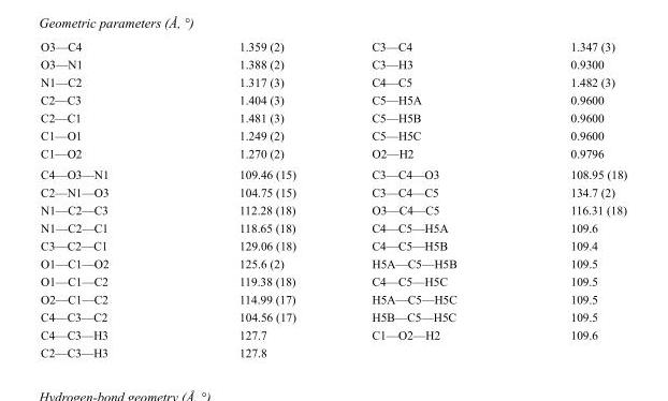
<table><tbody><tr><td>O3—C4</td><td>1.359 (2)</td><td>C3—C4</td><td>1.347 (3)</td></tr><tr><td>O3—N1</td><td>1.388 (2)</td><td>C3—H3</td><td>0.9300</td></tr><tr><td>N1—C2</td><td>1.317 (3)</td><td>C4—C5</td><td>1.482 (3)</td></tr><tr><td>C2—C3</td><td>1.404 (3)</td><td>C5—H5A</td><td>0.9600</td></tr><tr><td>C2—C1</td><td>1.481 (3)</td><td>C5—H5B</td><td>0.9600</td></tr><tr><td>C1—O1</td><td>1.249 (2)</td><td>C5—H5C</td><td>0.9600</td></tr><tr><td>C1—O2</td><td>1.270 (2)</td><td>O2—H2</td><td>0.9796</td></tr><tr><td>C4—O3—N1</td><td>109.46 (15)</td><td>C3—C4—O3</td><td>108.95 (18)</td></tr><tr><td>C2—N1—O3</td><td>104.75 (15)</td><td>C3—C4—C5</td><td>134.7 (2)</td></tr><tr><td>N1—C2—C3</td><td>112.28 (18)</td><td>O3—C4—C5</td><td>116.31 (18)</td></tr><tr><td>N1—C2—C1</td><td>118.65 (18)</td><td>C4—C5—H5A</td><td>109.6</td></tr><tr><td>C3—C2—C1</td><td>129.06 (18)</td><td>C4—C5—H5B</td><td>109.4</td></tr><tr><td>O1—C1—O2</td><td>125.6 (2)</td><td>H5A—C5—H5B</td><td>109.5</td></tr><tr><td>O1—C1—C2</td><td>119.38 (18)</td><td>C4—C5—H5C</td><td>109.5</td></tr><tr><td>O2—C1—C2</td><td>114.99 (17)</td><td>H5A—C5—H5C</td><td>109.5</td></tr><tr><td>C4—C3—C2</td><td>104.56 (17)</td><td>H5B—C5—H5C</td><td>109.5</td></tr><tr><td>C4—C3—H3</td><td>127.7</td><td>C1—O2—H2</td><td>109.6</td></tr><tr><td>C2—C3—H3</td><td>127.8</td><td></td><td></td></tr></tbody></table>